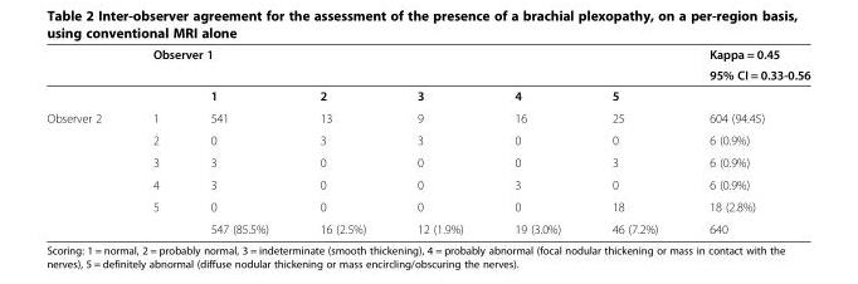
<table><thead><tr><td rowspan="3"></td><td rowspan="2" colspan="6">Observer 1</td><td rowspan="3">Kappa = 0.45 95% CI = 0.33-0.56</td></tr><tr></tr><tr><td></td><td>1</td><td>2</td><td>3</td><td>4</td><td>5</td></tr></thead><tbody><tr><td rowspan="6">Observer 2</td><td>1</td><td>541</td><td>13</td><td>9</td><td>16</td><td>25</td><td>604 (94.45)</td></tr><tr><td>2</td><td>0</td><td>3</td><td>3</td><td>0</td><td>0</td><td>6 (0.9%)</td></tr><tr><td>3</td><td>3</td><td>0</td><td>0</td><td>0</td><td>3</td><td>6 (0.9%)</td></tr><tr><td>4</td><td>3</td><td>0</td><td>0</td><td>3</td><td>0</td><td>6 (0.9%)</td></tr><tr><td>5</td><td>0</td><td>0</td><td>0</td><td>0</td><td>18</td><td>18 (2.8%)</td></tr><tr><td></td><td>547 (85.5%)</td><td>16 (2.5%)</td><td>12 (1.9%)</td><td>19 (3.0%)</td><td>46 (7.2%)</td><td>640</td></tr></tbody></table>